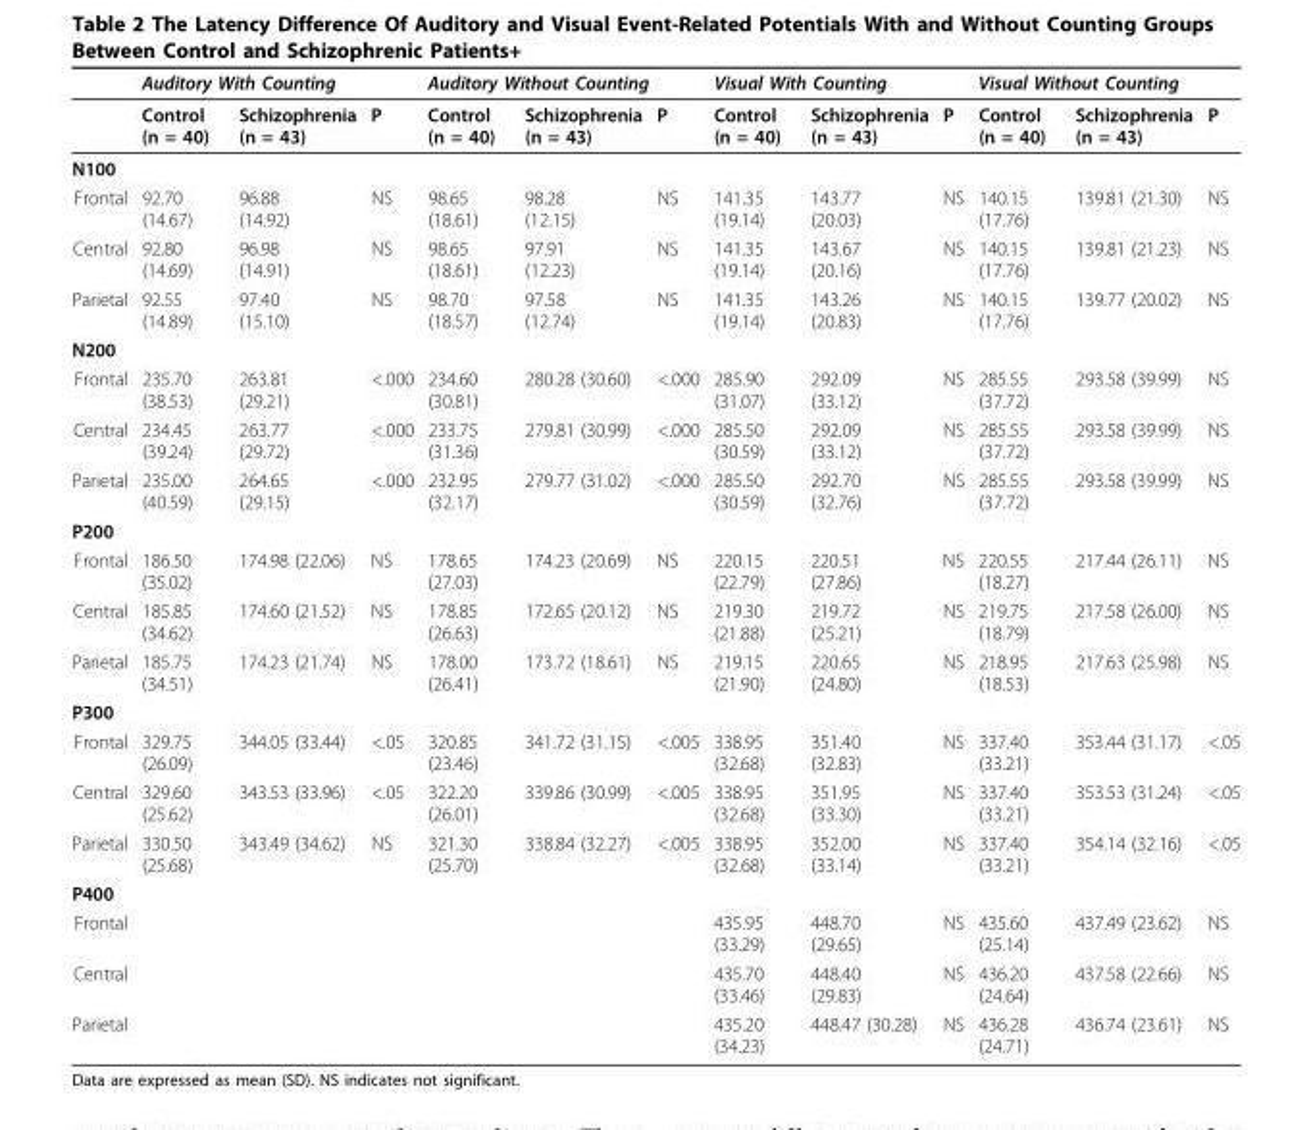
<table><thead><tr><td rowspan="2"></td><td colspan="3">Auditory With Counting</td><td colspan="3">Auditory Without Counting</td><td colspan="3">Visual With Counting</td><td colspan="3">Visual Without Counting</td></tr><tr><td>Control (n = 40)</td><td>Schizophrenia (n = 43)</td><td>P</td><td>Control (n = 40)</td><td>Schizophrenia (n = 43)</td><td>P</td><td>Control (n = 40)</td><td>Schizophrenia (n = 43)</td><td>P</td><td>Control (n = 40)</td><td>Schizophrenia (n = 43)</td><td>P</td></tr></thead><tbody><tr><td colspan="13">N100</td></tr><tr><td>Frontal</td><td>92.70 (14.67)</td><td>96.88 (14.92)</td><td>NS</td><td>98.65 (18.61)</td><td>98.28 (12.15)</td><td>NS</td><td>141.35 (19.14)</td><td>143.77 (20.03)</td><td>NS</td><td>140.15 (17.76)</td><td>139.81 (21.30)</td><td>NS</td></tr><tr><td>Central</td><td>92.80 (14.69)</td><td>96.98 (14.91)</td><td>NS</td><td>98.65 (18.61)</td><td>97.91 (12.23)</td><td>NS</td><td>141.35 (19.14)</td><td>143.67 (20.16)</td><td>NS</td><td>140.15 (17.76)</td><td>139.81 (21.23)</td><td>NS</td></tr><tr><td>Parietal</td><td>92.55 (14.89)</td><td>97.40 (15.10)</td><td>NS</td><td>98.70 (18.57)</td><td>97.58 (12.74)</td><td>NS</td><td>141.35 (19.14)</td><td>143.26 (20.83)</td><td>NS</td><td>140.15 (17.76)</td><td>139.77 (20.02)</td><td>NS</td></tr><tr><td colspan="13">N200</td></tr><tr><td>Frontal</td><td>235.70 (38.53)</td><td>263.81 (29.21)</td><td>&lt;.000</td><td>234.60 (30.81)</td><td>280.28 (30.60)</td><td>&lt;.000</td><td>285.90 (31.07)</td><td>292.09 (33.12)</td><td>NS</td><td>285.55 (37.72)</td><td>293.58 (39.99)</td><td>NS</td></tr><tr><td>Central</td><td>234.45 (39.24)</td><td>263.77 (29.72)</td><td>&lt;.000</td><td>233.75 (31.36)</td><td>279.81 (30.99)</td><td>&lt;.000</td><td>285.50 (30.59)</td><td>292.09 (33.12)</td><td>NS</td><td>285.55 (37.72)</td><td>293.58 (39.99)</td><td>NS</td></tr><tr><td>Parietal</td><td>235.00 (40.59)</td><td>264.65 (29.15)</td><td>&lt;.000</td><td>232.95 (32.17)</td><td>279.77 (31.02)</td><td>&lt;.000</td><td>285.50 (30.59)</td><td>292.70 (32.76)</td><td>NS</td><td>285.55 (37.72)</td><td>293.58 (39.99)</td><td>NS</td></tr><tr><td colspan="13">P200</td></tr><tr><td>Frontal</td><td>186.50 (35.02)</td><td>174.98 (22.06)</td><td>NS</td><td>178.65 (27.03)</td><td>174.23 (20.69)</td><td>NS</td><td>220.15 (22.79)</td><td>220.51 (27.86)</td><td>NS</td><td>220.55 (18.27)</td><td>217.44 (26.11)</td><td>NS</td></tr><tr><td>Central</td><td>185.85 (34.62)</td><td>174.60 (21.52)</td><td>NS</td><td>178.85 (26.63)</td><td>172.65 (20.12)</td><td>NS</td><td>219.30 (21.88)</td><td>219.72 (25.21)</td><td>NS</td><td>219.75 (18.79)</td><td>217.58 (26.00)</td><td>NS</td></tr><tr><td>Parietal</td><td>185.75 (34.51)</td><td>174.23 (21.74)</td><td>NS</td><td>178.00 (26.41)</td><td>173.72 (18.61)</td><td>NS</td><td>219.15 (21.90)</td><td>220.65 (24.80)</td><td>NS</td><td>218.95 (18.53)</td><td>217.63 (25.98)</td><td>NS</td></tr><tr><td colspan="13">P300</td></tr><tr><td>Frontal</td><td>329.75 (26.09)</td><td>344.05 (33.44)</td><td>&lt;.05</td><td>320.85 (23.46)</td><td>341.72 (31.15)</td><td>&lt;.005</td><td>338.95 (32.68)</td><td>351.40 (32.83)</td><td>NS</td><td>337.40 (33.21)</td><td>353.44 (31.17)</td><td>&lt;.05</td></tr><tr><td>Central</td><td>329.60 (25.62)</td><td>343.53 (33.96)</td><td>&lt;.05</td><td>322.20 (26.01)</td><td>339.86 (30.99)</td><td>&lt;.005</td><td>338.95 (32.68)</td><td>351.95 (33.30)</td><td>NS</td><td>337.40 (33.21)</td><td>353.53 (31.24)</td><td>&lt;.05</td></tr><tr><td>Parietal</td><td>330.50 (25.68)</td><td>343.49 (34.62)</td><td>NS</td><td>321.30 (25.70)</td><td>338.84 (32.27)</td><td>&lt;.005</td><td>338.95 (32.68)</td><td>352.00 (33.14)</td><td>NS</td><td>337.40 (33.21)</td><td>354.14 (32.16)</td><td>&lt;.05</td></tr><tr><td colspan="13">P400</td></tr><tr><td>Frontal</td><td></td><td></td><td></td><td></td><td></td><td></td><td>435.95 (33.29)</td><td>448.70 (29.65)</td><td>NS</td><td>435.60 (25.14)</td><td>437.49 (23.62)</td><td>NS</td></tr><tr><td>Central</td><td></td><td></td><td></td><td></td><td></td><td></td><td>435.70 (33.46)</td><td>448.40 (29.83)</td><td>NS</td><td>436.20 (24.64)</td><td>437.58 (22.66)</td><td>NS</td></tr><tr><td>Parietal</td><td></td><td></td><td></td><td></td><td></td><td></td><td>435.20 (34.23)</td><td>448.47 (30.28)</td><td>NS</td><td>436.28 (24.71)</td><td>436.74 (23.61)</td><td>NS</td></tr></tbody></table>